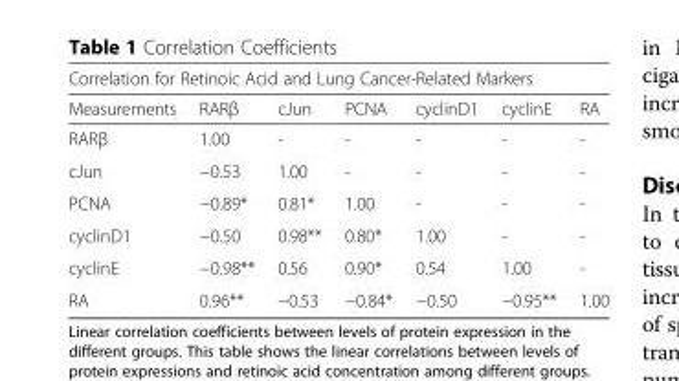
<table><thead><tr><td colspan="7">Correlation for Retinoic Acid and Lung Cancer-Related Markers</td></tr><tr><td>Measurements</td><td>RARβ</td><td>cJun</td><td>PCNA</td><td>cyclinD1</td><td>cyclinE</td><td>RA</td></tr></thead><tbody><tr><td>RARβ</td><td>1.00</td><td>-</td><td>-</td><td>-</td><td>-</td><td>-</td></tr><tr><td>cJun</td><td>−0.53</td><td>1.00</td><td>-</td><td>-</td><td>-</td><td>-</td></tr><tr><td>PCNA</td><td>−0.89*</td><td>0.81*</td><td>1.00</td><td>-</td><td>-</td><td>-</td></tr><tr><td>cyclinD1</td><td>−0.50</td><td>0.98**</td><td>0.80*</td><td>1.00</td><td>-</td><td>-</td></tr><tr><td>cyclinE</td><td>−0.98**</td><td>0.56</td><td>0.90*</td><td>0.54</td><td>1.00</td><td>-</td></tr><tr><td>RA</td><td>0.96**</td><td>−0.53</td><td>−0.84*</td><td>−0.50</td><td>−0.95**</td><td>1.00</td></tr></tbody></table>